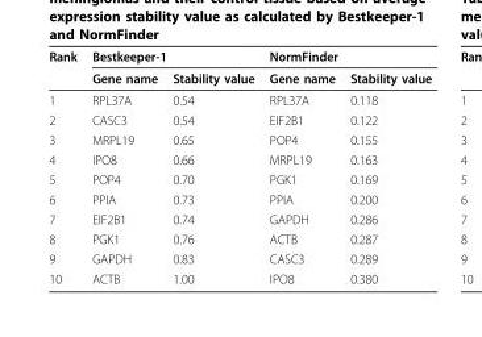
<table><thead><tr><td rowspan="2">Rank</td><td colspan="2">Bestkeeper-1</td><td colspan="2">NormFinder</td></tr><tr><td>Gene name</td><td>Stability value</td><td>Gene name</td><td>Stability value</td></tr></thead><tbody><tr><td>1</td><td>RPL37A</td><td>0.54</td><td>RPL37A</td><td>0.118</td></tr><tr><td>2</td><td>CASC3</td><td>0.54</td><td>EIF2B1</td><td>0.122</td></tr><tr><td>3</td><td>MRPL19</td><td>0.65</td><td>POP4</td><td>0.155</td></tr><tr><td>4</td><td>IPO8</td><td>0.66</td><td>MRPL19</td><td>0.163</td></tr><tr><td>5</td><td>POP4</td><td>0.70</td><td>PGK1</td><td>0.169</td></tr><tr><td>6</td><td>PPIA</td><td>0.73</td><td>PPIA</td><td>0.200</td></tr><tr><td>7</td><td>EIF2B1</td><td>0.74</td><td>GAPDH</td><td>0.286</td></tr><tr><td>8</td><td>PGK1</td><td>0.76</td><td>ACTB</td><td>0.287</td></tr><tr><td>9</td><td>GAPDH</td><td>0.83</td><td>CASC3</td><td>0.289</td></tr><tr><td>10</td><td>ACTB</td><td>1.00</td><td>IPO8</td><td>0.380</td></tr></tbody></table>